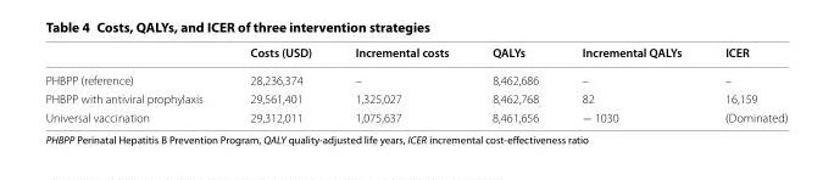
<table><thead><tr><td></td><td>Costs (USD)</td><td>Incremental costs</td><td>QALYs</td><td>Incremental QALYs</td><td>ICER</td></tr></thead><tbody><tr><td>PHBPP (reference)</td><td>28,236,374</td><td>–</td><td>8,462,686</td><td>–</td><td>–</td></tr><tr><td>PHBPP with antiviral prophylaxis</td><td>29,561,401</td><td>1,325,027</td><td>8,462,768</td><td>82</td><td>16,159</td></tr><tr><td>Universal vaccination</td><td>29,312,011</td><td>1,075,637</td><td>8,461,656</td><td>− 1030</td><td>(Dominated)</td></tr></tbody></table>